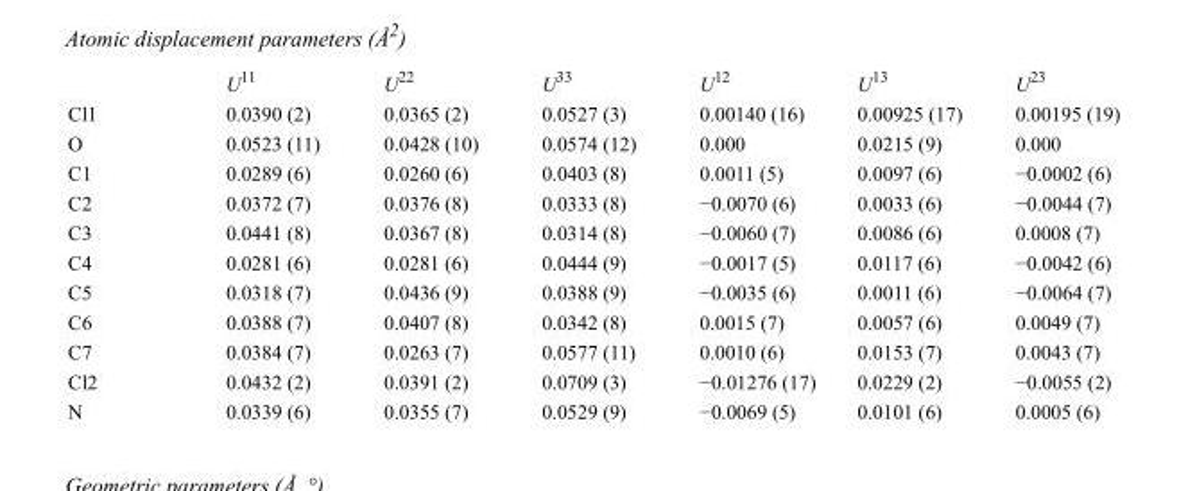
<table><thead><tr><td></td><td>U<sup>11</sup></td><td>U<sup>22</sup></td><td>U<sup>33</sup></td><td>U<sup>12</sup></td><td>U<sup>13</sup></td><td>U<sup>23</sup></td></tr></thead><tbody><tr><td>Cl1</td><td>0.0390 (2)</td><td>0.0365 (2)</td><td>0.0527 (3)</td><td>0.00140 (16)</td><td>0.00925 (17)</td><td>0.00195 (19)</td></tr><tr><td>O</td><td>0.0523 (11)</td><td>0.0428 (10)</td><td>0.0574 (12)</td><td>0.000</td><td>0.0215 (9)</td><td>0.000</td></tr><tr><td>C1</td><td>0.0289 (6)</td><td>0.0260 (6)</td><td>0.0403 (8)</td><td>0.0011 (5)</td><td>0.0097 (6)</td><td>−0.0002 (6)</td></tr><tr><td>C2</td><td>0.0372 (7)</td><td>0.0376 (8)</td><td>0.0333 (8)</td><td>−0.0070 (6)</td><td>0.0033 (6)</td><td>−0.0044 (7)</td></tr><tr><td>C3</td><td>0.0441 (8)</td><td>0.0367 (8)</td><td>0.0314 (8)</td><td>−0.0060 (7)</td><td>0.0086 (6)</td><td>0.0008 (7)</td></tr><tr><td>C4</td><td>0.0281 (6)</td><td>0.0281 (6)</td><td>0.0444 (9)</td><td>−0.0017 (5)</td><td>0.0117 (6)</td><td>−0.0042 (6)</td></tr><tr><td>C5</td><td>0.0318 (7)</td><td>0.0436 (9)</td><td>0.0388 (9)</td><td>−0.0035 (6)</td><td>0.0011 (6)</td><td>−0.0064 (7)</td></tr><tr><td>C6</td><td>0.0388 (7)</td><td>0.0407 (8)</td><td>0.0342 (8)</td><td>0.0015 (7)</td><td>0.0057 (6)</td><td>0.0049 (7)</td></tr><tr><td>C7</td><td>0.0384 (7)</td><td>0.0263 (7)</td><td>0.0577 (11)</td><td>0.0010 (6)</td><td>0.0153 (7)</td><td>0.0043 (7)</td></tr><tr><td>Cl2</td><td>0.0432 (2)</td><td>0.0391 (2)</td><td>0.0709 (3)</td><td>−0.01276 (17)</td><td>0.0229 (2)</td><td>−0.0055 (2)</td></tr><tr><td>N</td><td>0.0339 (6)</td><td>0.0355 (7)</td><td>0.0529 (9)</td><td>−0.0069 (5)</td><td>0.0101 (6)</td><td>0.0005 (6)</td></tr></tbody></table>